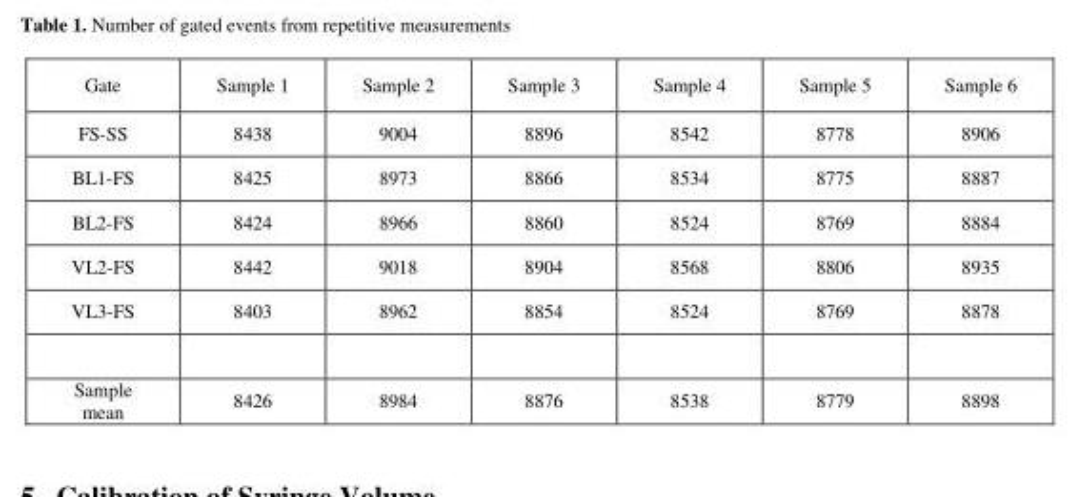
<table><thead><tr><td>Gate</td><td>Sample 1</td><td>Sample 2</td><td>Sample 3</td><td>Sample 4</td><td>Sample 5</td><td>Sample 6</td></tr></thead><tbody><tr><td>FS-SS</td><td>8438</td><td>9004</td><td>8896</td><td>8542</td><td>8778</td><td>8906</td></tr><tr><td>BL1-FS</td><td>8425</td><td>8973</td><td>8866</td><td>8534</td><td>8775</td><td>8887</td></tr><tr><td>BL2-FS</td><td>8424</td><td>8966</td><td>8860</td><td>8524</td><td>8769</td><td>8884</td></tr><tr><td>VL2-FS</td><td>8442</td><td>9018</td><td>8904</td><td>8568</td><td>8806</td><td>8935</td></tr><tr><td>VL3-FS</td><td>8403</td><td>8962</td><td>8854</td><td>8524</td><td>8769</td><td>8878</td></tr><tr><td>Sample mean</td><td>8426</td><td>8984</td><td>8876</td><td>8538</td><td>8779</td><td>8898</td></tr></tbody></table>